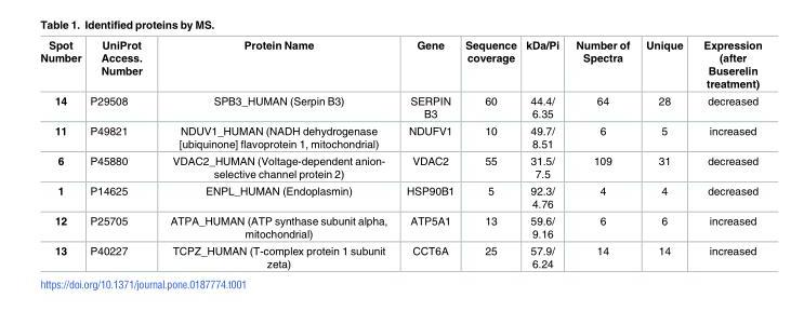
<table><thead><tr><td>Spot Number</td><td>UniProt Access. Number</td><td>Protein Name</td><td>Gene</td><td>Sequence coverage</td><td>kDa/Pi</td><td>Number of Spectra</td><td>Unique</td><td>Expression (after Buserelin treatment)</td></tr></thead><tbody><tr><td>14</td><td>P29508</td><td>SPB3_HUMAN (Serpin B3)</td><td>SERPIN B3</td><td>60</td><td>44.4/ 6.35</td><td>64</td><td>28</td><td>decreased</td></tr><tr><td>11</td><td>P49821</td><td>NDUV1_HUMAN (NADH dehydrogenase [ubiquinone] flavoprotein 1, mitochondrial)</td><td>NDUFV1</td><td>10</td><td>49.7/ 8.51</td><td>6</td><td>5</td><td>increased</td></tr><tr><td>6</td><td>P45880</td><td>VDAC2_HUMAN (Voltage-dependent anion- selective channel protein 2)</td><td>VDAC2</td><td>55</td><td>31.5/ 7.5</td><td>109</td><td>31</td><td>decreased</td></tr><tr><td>1</td><td>P14625</td><td>ENPL_HUMAN (Endoplasmin)</td><td>HSP90B1</td><td>5</td><td>92.3/ 4.76</td><td>4</td><td>4</td><td>decreased</td></tr><tr><td>12</td><td>P25705</td><td>ATPA_HUMAN (ATP synthase subunit alpha, mitochondrial)</td><td>ATP5A1</td><td>13</td><td>59.6/ 9.16</td><td>6</td><td>6</td><td>increased</td></tr><tr><td>13</td><td>P40227</td><td>TCPZ_HUMAN (T-complex protein 1 subunit zeta)</td><td>CCT6A</td><td>25</td><td>57.9/ 6.24</td><td>14</td><td>14</td><td>increased</td></tr></tbody></table>